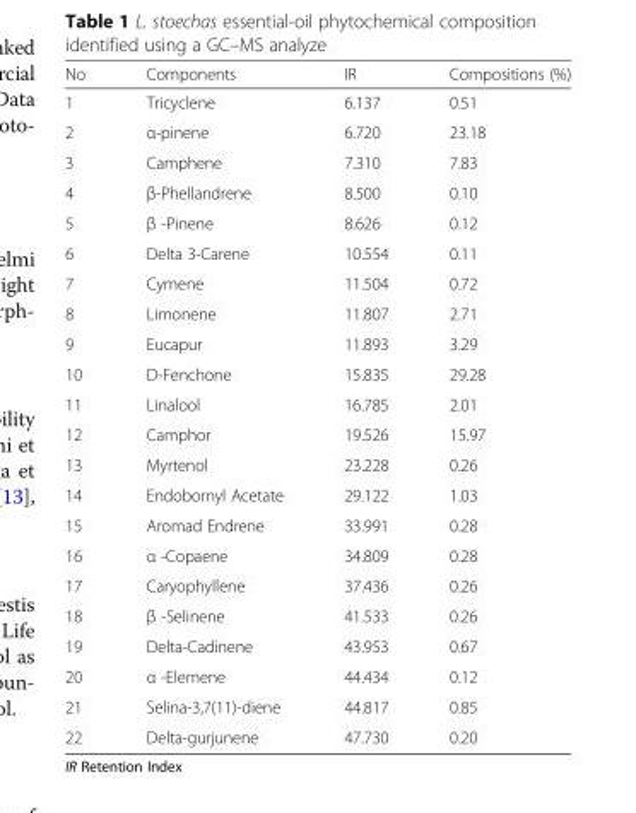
<table><thead><tr><td>No</td><td>Components</td><td>IR</td><td>Compositions (%)</td></tr></thead><tbody><tr><td>1</td><td>Tricyclene</td><td>6.137</td><td>0.51</td></tr><tr><td>2</td><td>α-pinene</td><td>6.720</td><td>23.18</td></tr><tr><td>3</td><td>Camphene</td><td>7.310</td><td>7.83</td></tr><tr><td>4</td><td>β-Phellandrene</td><td>8.500</td><td>0.10</td></tr><tr><td>5</td><td>β -Pinene</td><td>8.626</td><td>0.12</td></tr><tr><td>6</td><td>Delta 3-Carene</td><td>10.554</td><td>0.11</td></tr><tr><td>7</td><td>Cymene</td><td>11.504</td><td>0.72</td></tr><tr><td>8</td><td>Limonene</td><td>11.807</td><td>2.71</td></tr><tr><td>9</td><td>Eucapur</td><td>11.893</td><td>3.29</td></tr><tr><td>10</td><td>D-Fenchone</td><td>15.835</td><td>29.28</td></tr><tr><td>11</td><td>Linalool</td><td>16.785</td><td>2.01</td></tr><tr><td>12</td><td>Camphor</td><td>19.526</td><td>15.97</td></tr><tr><td>13</td><td>Myrtenol</td><td>23.228</td><td>0.26</td></tr><tr><td>14</td><td>Endobornyl Acetate</td><td>29.122</td><td>1.03</td></tr><tr><td>15</td><td>Aromad Endrene</td><td>33.991</td><td>0.28</td></tr><tr><td>16</td><td>α -Copaene</td><td>34.809</td><td>0.28</td></tr><tr><td>17</td><td>Caryophyllene</td><td>37.436</td><td>0.26</td></tr><tr><td>18</td><td>β -Selinene</td><td>41.533</td><td>0.26</td></tr><tr><td>19</td><td>Delta-Cadinene</td><td>43.953</td><td>0.67</td></tr><tr><td>20</td><td>α -Elemene</td><td>44.434</td><td>0.12</td></tr><tr><td>21</td><td>Selina-3,7(11)-diene</td><td>44.817</td><td>0.85</td></tr><tr><td>22</td><td>Delta-gurjunene</td><td>47.730</td><td>0.20</td></tr></tbody></table>